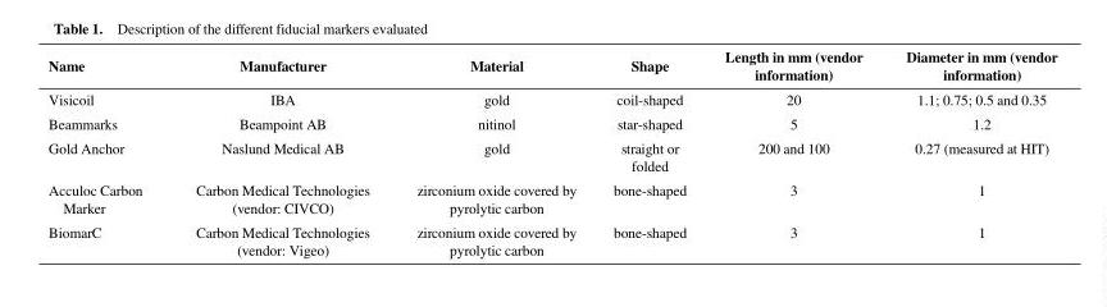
<table><thead><tr><td>Name</td><td>Manufacturer</td><td>Material</td><td>Shape</td><td>Length in mm (vendor information)</td><td>Diameter in mm (vendor information)</td></tr></thead><tbody><tr><td>Visicoil</td><td>IBA</td><td>gold</td><td>coil-shaped</td><td>20</td><td>1.1; 0.75; 0.5 and 0.35</td></tr><tr><td>Beammarks</td><td>Beampoint AB</td><td>nitinol</td><td>star-shaped</td><td>5</td><td>1.2</td></tr><tr><td>Gold Anchor</td><td>Naslund Medical AB</td><td>gold</td><td>straight or folded</td><td>200 and 100</td><td>0.27 (measured at HIT)</td></tr><tr><td>Acculoc Carbon Marker</td><td>Carbon Medical Technologies (vendor: CIVCO)</td><td>zirconium oxide covered by pyrolytic carbon</td><td>bone-shaped</td><td>3</td><td>1</td></tr><tr><td>BiomarC</td><td>Carbon Medical Technologies (vendor: Vigeo)</td><td>zirconium oxide covered by pyrolytic carbon</td><td>bone-shaped</td><td>3</td><td>1</td></tr></tbody></table>